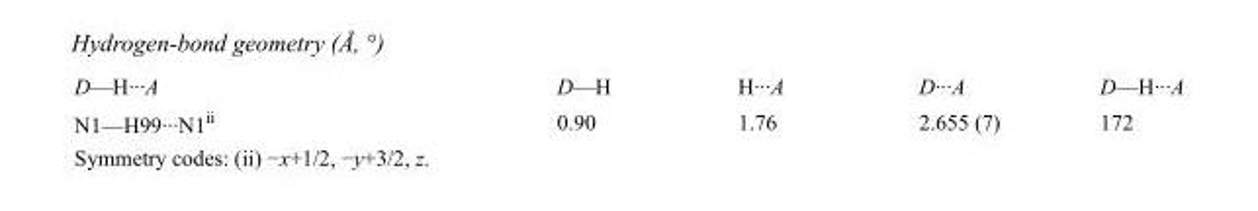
<table><tbody><tr><td>D—H···A</td><td>D—H</td><td>H···A</td><td>D···A</td><td>D—H···A</td></tr><tr><td>N1—H99···N1<sup>ii</sup></td><td>0.90</td><td>1.76</td><td>2.655 (7)</td><td>172</td></tr></tbody></table>